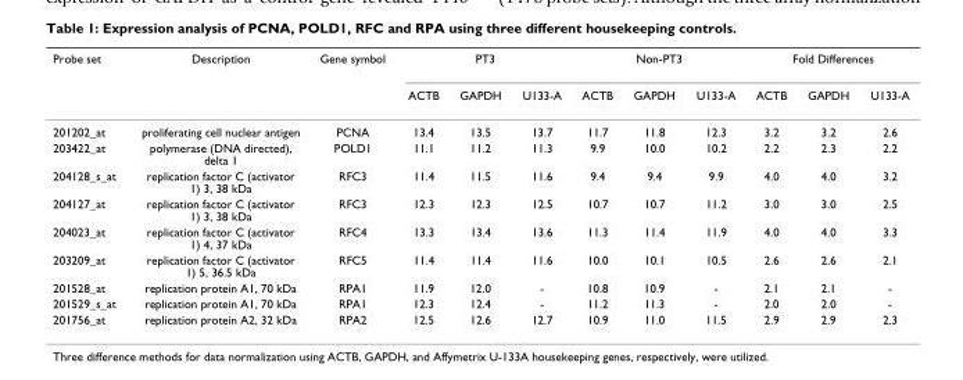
<table><thead><tr><td rowspan="2">Probe set</td><td rowspan="2">Description</td><td rowspan="2">Gene symbol</td><td colspan="3">PT3</td><td colspan="3">Non-PT3</td><td colspan="3">Fold Differences</td></tr><tr><td>ACTB</td><td>GAPDH</td><td>U133-A</td><td>ACTB</td><td>GAPDH</td><td>U133-A</td><td>ACTB</td><td>GAPDH</td><td>U133-A</td></tr></thead><tbody><tr><td>201202_at</td><td>proliferating cell nuclear antigen</td><td>PCNA</td><td>13.4</td><td>13.5</td><td>13.7</td><td>11.7</td><td>11.8</td><td>12.3</td><td>3.2</td><td>3.2</td><td>2.6</td></tr><tr><td>203422_at</td><td>polymerase (DNA directed), delta 1</td><td>POLD1</td><td>11.1</td><td>11.2</td><td>11.3</td><td>9.9</td><td>10.0</td><td>10.2</td><td>2.2</td><td>2.3</td><td>2.2</td></tr><tr><td>204128_s_at</td><td>replication factor C (activator 1) 3, 38 kDa</td><td>RFC3</td><td>11.4</td><td>11.5</td><td>11.6</td><td>9.4</td><td>9.4</td><td>9.9</td><td>4.0</td><td>4.0</td><td>3.2</td></tr><tr><td>204127_at</td><td>replication factor C (activator 1) 3, 38 kDa</td><td>RFC3</td><td>12.3</td><td>12.3</td><td>12.5</td><td>10.7</td><td>10.7</td><td>11.2</td><td>3.0</td><td>3.0</td><td>2.5</td></tr><tr><td>204023_at</td><td>replication factor C (activator 1) 4, 37 kDa</td><td>RFC4</td><td>13.3</td><td>13.4</td><td>13.6</td><td>11.3</td><td>11.4</td><td>11.9</td><td>4.0</td><td>4.0</td><td>3.3</td></tr><tr><td>203209_at</td><td>replication factor C (activator 1) 5, 36.5 kDa</td><td>RFC5</td><td>11.4</td><td>11.4</td><td>11.6</td><td>10.0</td><td>10.1</td><td>10.5</td><td>2.6</td><td>2.6</td><td>2.1</td></tr><tr><td>201528_at</td><td>replication protein A1, 70 kDa</td><td>RPA1</td><td>11.9</td><td>12.0</td><td>-</td><td>10.8</td><td>10.9</td><td>-</td><td>2.1</td><td>2.1</td><td>-</td></tr><tr><td>201529_s_at</td><td>replication protein A1, 70 kDa</td><td>RPA1</td><td>12.3</td><td>12.4</td><td>-</td><td>11.2</td><td>11.3</td><td>-</td><td>2.0</td><td>2.0</td><td>-</td></tr><tr><td>201756_at</td><td>replication protein A2, 32 kDa</td><td>RPA2</td><td>12.5</td><td>12.6</td><td>12.7</td><td>10.9</td><td>11.0</td><td>11.5</td><td>2.9</td><td>2.9</td><td>2.3</td></tr></tbody></table>